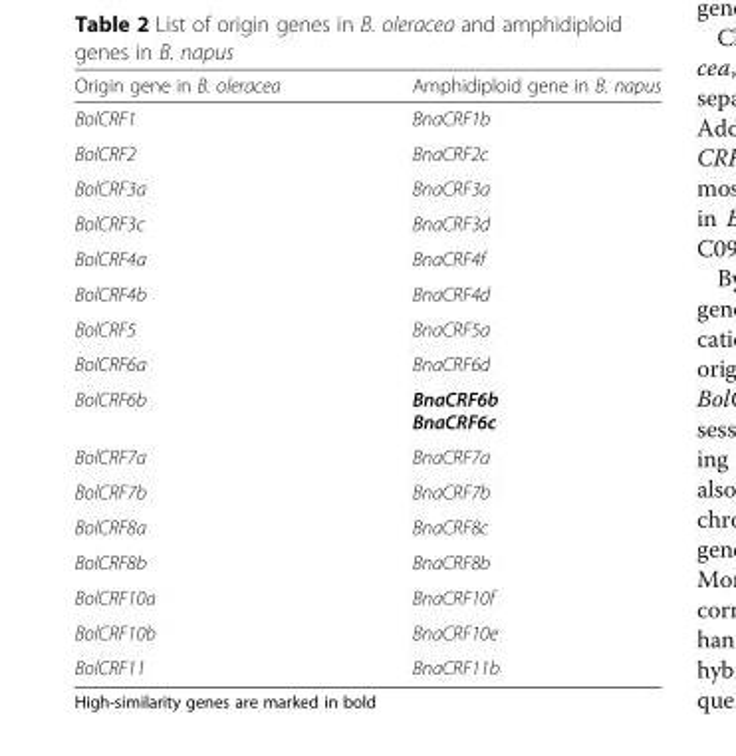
<table><thead><tr><td>Origin gene in B. oleracea</td><td>Amphidiploid gene in B. napus</td></tr></thead><tbody><tr><td>BolCRF1</td><td>BnaCRF1b</td></tr><tr><td>BolCRF2</td><td>BnaCRF2c</td></tr><tr><td>BolCRF3a</td><td>BnaCRF3a</td></tr><tr><td>BolCRF3c</td><td>BnaCRF3d</td></tr><tr><td>BolCRF4a</td><td>BnaCRF4f</td></tr><tr><td>BolCRF4b</td><td>BnaCRF4d</td></tr><tr><td>BolCRF5</td><td>BnaCRF5a</td></tr><tr><td>BolCRF6a</td><td>BnaCRF6d</td></tr><tr><td>BolCRF6b</td><td>BnaCRF6b BnaCRF6c</td></tr><tr><td>BolCRF7a</td><td>BnaCRF7a</td></tr><tr><td>BolCRF7b</td><td>BnaCRF7b</td></tr><tr><td>BolCRF8a</td><td>BnaCRF8c</td></tr><tr><td>BolCRF8b</td><td>BnaCRF8b</td></tr><tr><td>BolCRF10a</td><td>BnaCRF10f</td></tr><tr><td>BolCRF10b</td><td>BnaCRF10e</td></tr><tr><td>BolCRF11</td><td>BnaCRF11b</td></tr></tbody></table>